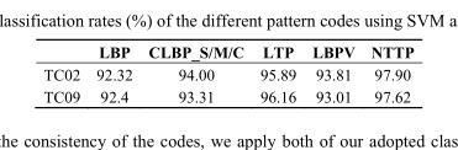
<table><thead><tr><td></td><td>LBP</td><td>CLBP_S/M/C</td><td>LTP</td><td>LBPV</td><td>NTTP</td></tr></thead><tbody><tr><td>TC02</td><td>92.32</td><td>94.00</td><td>95.89</td><td>93.81</td><td>97.90</td></tr><tr><td>TC09</td><td>92.4</td><td>93.31</td><td>96.16</td><td>93.01</td><td>97.62</td></tr></tbody></table>